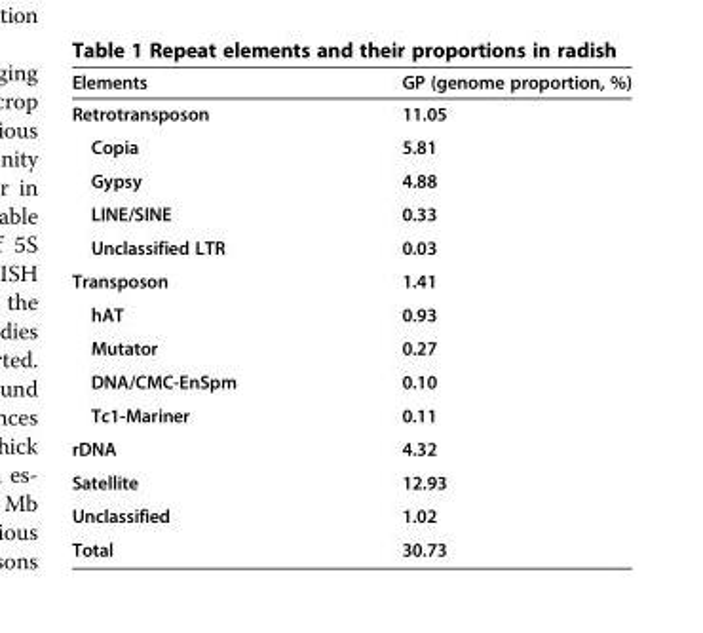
<table><thead><tr><td>Elements</td><td>GP (genome proportion, %)</td></tr></thead><tbody><tr><td>Retrotransposon</td><td>11.05</td></tr><tr><td>Copia</td><td>5.81</td></tr><tr><td>Gypsy</td><td>4.88</td></tr><tr><td>LINE/SINE</td><td>0.33</td></tr><tr><td>Unclassified LTR</td><td>0.03</td></tr><tr><td>Transposon</td><td>1.41</td></tr><tr><td>hAT</td><td>0.93</td></tr><tr><td>Mutator</td><td>0.27</td></tr><tr><td>DNA/CMC-EnSpm</td><td>0.10</td></tr><tr><td>Tc1-Mariner</td><td>0.11</td></tr><tr><td>rDNA</td><td>4.32</td></tr><tr><td>Satellite</td><td>12.93</td></tr><tr><td>Unclassified</td><td>1.02</td></tr><tr><td>Total</td><td>30.73</td></tr></tbody></table>